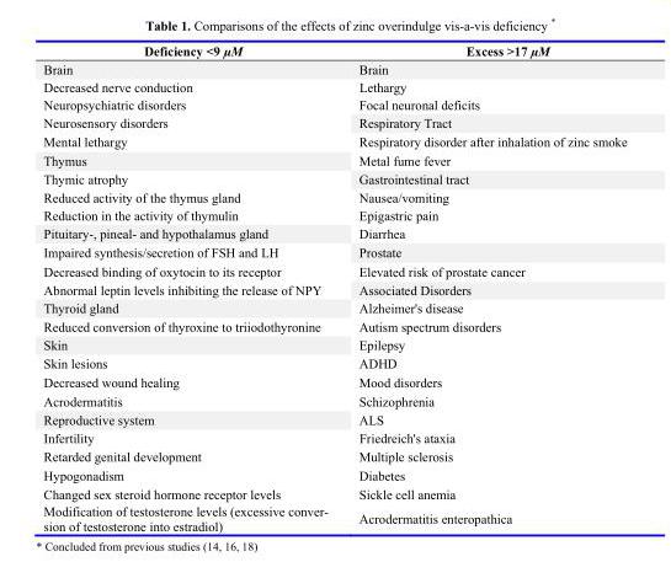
<table><thead><tr><td>Deficiency &lt;9 µM</td><td>Excess &gt;17 µM</td></tr></thead><tbody><tr><td>Brain</td><td>Brain</td></tr><tr><td>Decreased nerve conduction</td><td>Lethargy</td></tr><tr><td>Neuropsychiatric disorders</td><td>Focal neuronal deficits</td></tr><tr><td>Neurosensory disorders</td><td>Respiratory Tract</td></tr><tr><td>Mental lethargy</td><td>Respiratory disorder after inhalation of zinc smoke</td></tr><tr><td>Thymus</td><td>Metal fume fever</td></tr><tr><td>Thymic atrophy</td><td>Gastrointestinal tract</td></tr><tr><td>Reduced activity of the thymus gland</td><td>Nausea/vomiting</td></tr><tr><td>Reduction in the activity of thymulin</td><td>Epigastric pain</td></tr><tr><td>Pituitary-, pineal- and hypothalamus gland</td><td>Diarrhea</td></tr><tr><td>Impaired synthesis/secretion of FSH and LH</td><td>Prostate</td></tr><tr><td>Decreased binding of oxytocin to its receptor</td><td>Elevated risk of prostate cancer</td></tr><tr><td>Abnormal leptin levels inhibiting the release of NPY</td><td>Associated Disorders</td></tr><tr><td>Thyroid gland</td><td>Alzheimer&#x27;s disease</td></tr><tr><td>Reduced conversion of thyroxine to triiodothyronine</td><td>Autism spectrum disorders</td></tr><tr><td>Skin</td><td>Epilepsy</td></tr><tr><td>Skin lesions</td><td>ADHD</td></tr><tr><td>Decreased wound healing</td><td>Mood disorders</td></tr><tr><td>Acrodermatitis</td><td>Schizophrenia</td></tr><tr><td>Reproductive system</td><td>ALS</td></tr><tr><td>Infertility</td><td>Friedreich&#x27;s ataxia</td></tr><tr><td>Retarded genital development</td><td>Multiple sclerosis</td></tr><tr><td>Hypogonadism</td><td>Diabetes</td></tr><tr><td>Changed sex steroid hormone receptor levels</td><td>Sickle cell anemia</td></tr><tr><td>Modification of testosterone levels (excessive conver- sion of testosterone into estradiol)</td><td>Acrodermatitis enteropathica</td></tr></tbody></table>